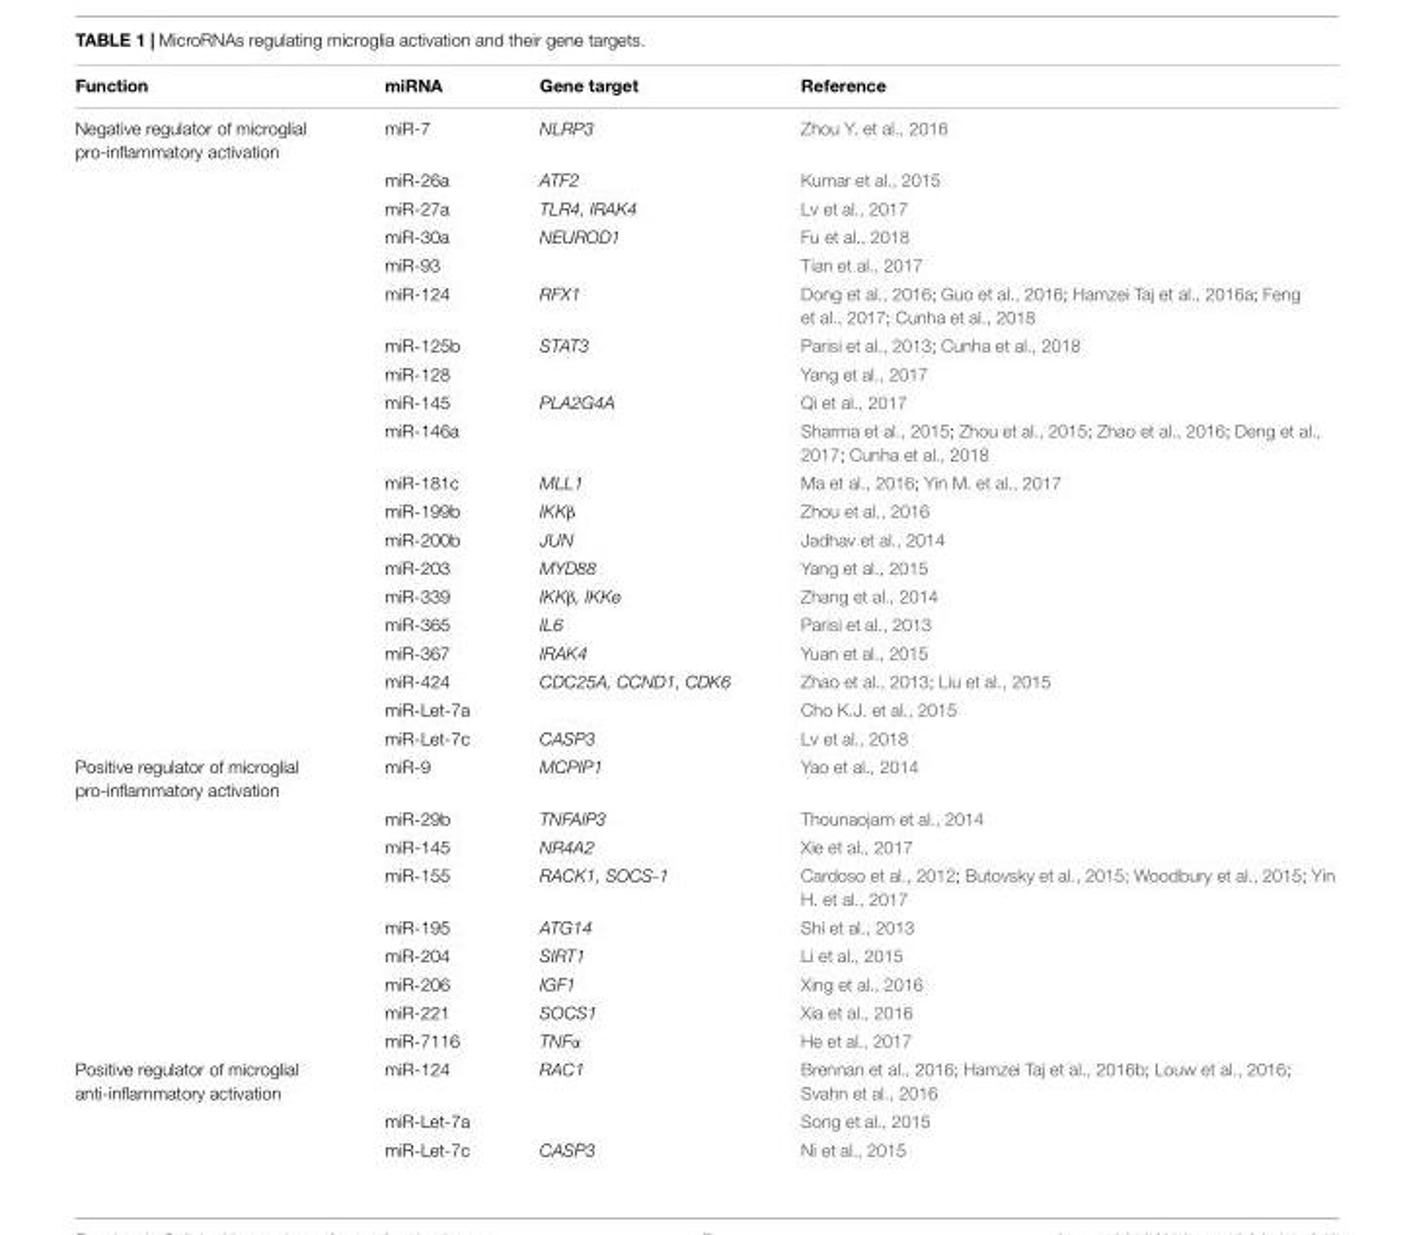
<table><thead><tr><td>Function</td><td>miRNA</td><td>Gene target</td><td>Reference</td></tr></thead><tbody><tr><td rowspan="20">Negative regulator of microglial pro-inflammatory activation</td><td>miR-7</td><td>NLRP3</td><td>Zhou Y. et al., 2016</td></tr><tr><td>miR-26a</td><td>ATF2</td><td>Kumar et al., 2015</td></tr><tr><td>miR-27a</td><td>TLR4, IRAK4</td><td>Lv et al., 2017</td></tr><tr><td>miR-30a</td><td>NEUROD1</td><td>Fu et al., 2018</td></tr><tr><td>miR-93</td><td></td><td>Tian et al., 2017</td></tr><tr><td>miR-124</td><td>RFX1</td><td>Dong et al., 2016; Guo et al., 2016; Hamzei Taj et al., 2016a; Feng et al., 2017; Cunha et al., 2018</td></tr><tr><td>miR-125b</td><td>STAT3</td><td>Parisi et al., 2013; Cunha et al., 2018</td></tr><tr><td>miR-128</td><td></td><td>Yang et al., 2017</td></tr><tr><td>miR-145</td><td>PLA2G4A</td><td>Qi et al., 2017</td></tr><tr><td>miR-146a</td><td></td><td>Sharma et al., 2015; Zhou et al., 2015; Zhao et al., 2016; Deng et al., 2017; Cunha et al., 2018</td></tr><tr><td>miR-181c</td><td>MLL1</td><td>Ma et al., 2016; Yin M. et al., 2017</td></tr><tr><td>miR-199b</td><td>IKKβ</td><td>Zhou et al., 2016</td></tr><tr><td>miR-200b</td><td>JUN</td><td>Jadhav et al., 2014</td></tr><tr><td>miR-203</td><td>MYD88</td><td>Yang et al., 2015</td></tr><tr><td>miR-339</td><td>IKKβ, IKKe</td><td>Zhang et al., 2014</td></tr><tr><td>miR-365</td><td>IL6</td><td>Parisi et al., 2013</td></tr><tr><td>miR-367</td><td>IRAK4</td><td>Yuan et al., 2015</td></tr><tr><td>miR-424</td><td>CDC25A, CCND1, CDK6</td><td>Zhao et al., 2013; Liu et al., 2015</td></tr><tr><td>miR-Let-7a</td><td></td><td>Cho K.J. et al., 2015</td></tr><tr><td>miR-Let-7c</td><td>CASP3</td><td>Lv et al., 2018</td></tr><tr><td rowspan="9">Positive regulator of microglial pro-inflammatory activation</td><td>miR-9</td><td>MCPIP1</td><td>Yao et al., 2014</td></tr><tr><td>miR-29b</td><td>TNFAIP3</td><td>Thounaojam et al., 2014</td></tr><tr><td>miR-145</td><td>NR4A2</td><td>Xie et al., 2017</td></tr><tr><td>miR-155</td><td>RACK1, SOCS-1</td><td>Cardoso et al., 2012; Butovsky et al., 2015; Woodbury et al., 2015; Yin H. et al., 2017</td></tr><tr><td>miR-195</td><td>ATG14</td><td>Shi et al., 2013</td></tr><tr><td>miR-204</td><td>SIRT1</td><td>Li et al., 2015</td></tr><tr><td>miR-206</td><td>IGF1</td><td>Xing et al., 2016</td></tr><tr><td>miR-221</td><td>SOCS1</td><td>Xia et al., 2016</td></tr><tr><td>miR-7116</td><td>TNFα</td><td>He et al., 2017</td></tr><tr><td rowspan="3">Positive regulator of microglial anti-inflammatory activation</td><td>miR-124</td><td>RAC1</td><td>Brennan et al., 2016; Hamzei Taj et al., 2016b; Louw et al., 2016; Svahn et al., 2016</td></tr><tr><td>miR-Let-7a</td><td></td><td>Song et al., 2015</td></tr><tr><td>miR-Let-7c</td><td>CASP3</td><td>Ni et al., 2015</td></tr></tbody></table>